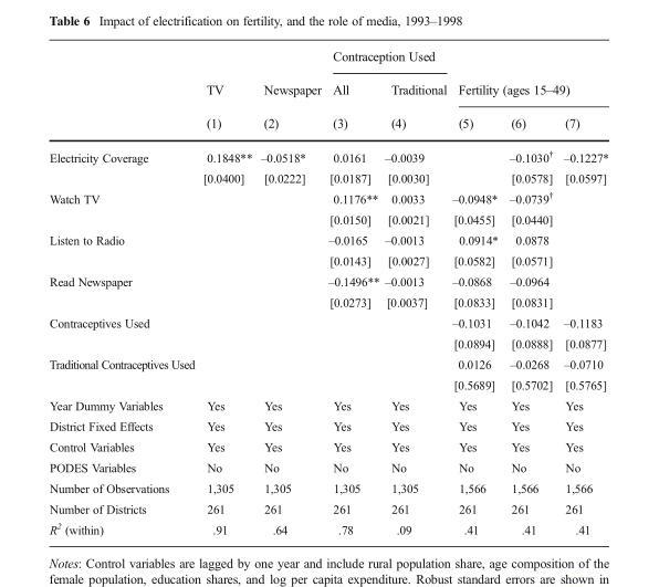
<table><thead><tr><td rowspan="3"></td><td rowspan="3">TV (1)</td><td rowspan="3">Newspaper (2)</td><td colspan="2">Contraception Used</td><td></td><td></td><td></td></tr><tr><td rowspan="2">All (3)</td><td rowspan="2">Traditional (4)</td><td colspan="3">Fertility (ages 15–49)</td></tr><tr><td>(5)</td><td>(6)</td><td>(7)</td></tr></thead><tbody><tr><td rowspan="2">Electricity Coverage</td><td>0.1848**</td><td>–0.0518*</td><td>0.0161</td><td>–0.0039</td><td></td><td>–0.1030<sup>†</sup></td><td>–0.1227*</td></tr><tr><td>[0.0400]</td><td>[0.0222]</td><td>[0.0187]</td><td>[0.0030]</td><td></td><td>[0.0578]</td><td>[0.0597]</td></tr><tr><td rowspan="2">Watch TV</td><td></td><td></td><td>0.1176**</td><td>0.0033</td><td>–0.0948*</td><td>–0.0739<sup>†</sup></td><td></td></tr><tr><td></td><td></td><td>[0.0150]</td><td>[0.0021]</td><td>[0.0455]</td><td>[0.0440]</td><td></td></tr><tr><td rowspan="2">Listen to Radio</td><td></td><td></td><td>–0.0165</td><td>–0.0013</td><td>0.0914*</td><td>0.0878</td><td></td></tr><tr><td></td><td></td><td>[0.0143]</td><td>[0.0027]</td><td>[0.0582]</td><td>[0.0571]</td><td></td></tr><tr><td rowspan="2">Read Newspaper</td><td></td><td></td><td>–0.1496**</td><td>–0.0013</td><td>–0.0868</td><td>–0.0964</td><td></td></tr><tr><td></td><td></td><td>[0.0273]</td><td>[0.0037]</td><td>[0.0833]</td><td>[0.0831]</td><td></td></tr><tr><td rowspan="2">Contraceptives Used</td><td></td><td></td><td></td><td></td><td>–0.1031</td><td>–0.1042</td><td>–0.1183</td></tr><tr><td></td><td></td><td></td><td></td><td>[0.0894]</td><td>[0.0888]</td><td>[0.0877]</td></tr><tr><td rowspan="2">Traditional Contraceptives Used</td><td></td><td></td><td></td><td></td><td>0.0126</td><td>–0.0268</td><td>–0.0710</td></tr><tr><td></td><td></td><td></td><td></td><td>[0.5689]</td><td>[0.5702]</td><td>[0.5765]</td></tr><tr><td>Year Dummy Variables</td><td>Yes</td><td>Yes</td><td>Yes</td><td>Yes</td><td>Yes</td><td>Yes</td><td>Yes</td></tr><tr><td>District Fixed Effects</td><td>Yes</td><td>Yes</td><td>Yes</td><td>Yes</td><td>Yes</td><td>Yes</td><td>Yes</td></tr><tr><td>Control Variables</td><td>Yes</td><td>Yes</td><td>Yes</td><td>Yes</td><td>Yes</td><td>Yes</td><td>Yes</td></tr><tr><td>PODES Variables</td><td>No</td><td>No</td><td>No</td><td>No</td><td>No</td><td>No</td><td>No</td></tr><tr><td>Number of Observations</td><td>1,305</td><td>1,305</td><td>1,305</td><td>1,305</td><td>1,566</td><td>1,566</td><td>1,566</td></tr><tr><td>Number of Districts</td><td>261</td><td>261</td><td>261</td><td>261</td><td>261</td><td>261</td><td>261</td></tr><tr><td>R<sup>2</sup> (within)</td><td>.91</td><td>.64</td><td>.78</td><td>.09</td><td>.41</td><td>.41</td><td>.41</td></tr></tbody></table>